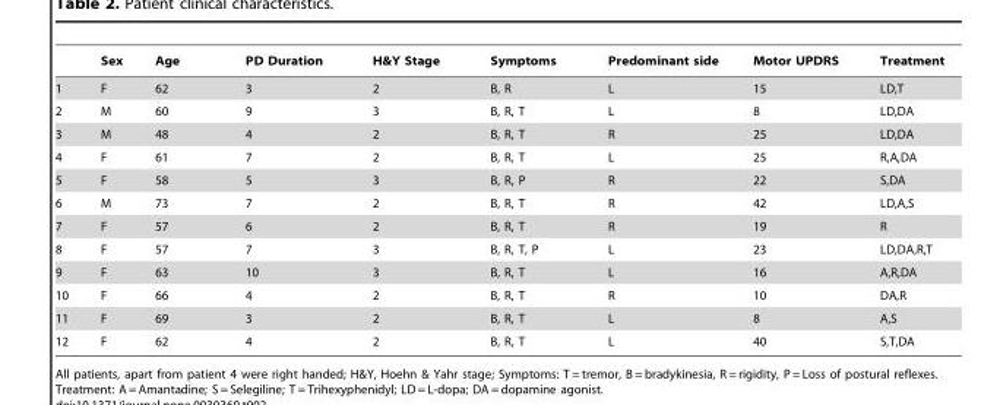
<table><thead><tr><td></td><td>Sex</td><td>Age</td><td>PD Duration</td><td>H&amp;Y Stage</td><td>Symptoms</td><td>Predominant side</td><td>Motor UPDRS</td><td>Treatment</td></tr></thead><tbody><tr><td>1</td><td>F</td><td>62</td><td>3</td><td>2</td><td>B, R</td><td>L</td><td>15</td><td>LD,T</td></tr><tr><td>2</td><td>M</td><td>60</td><td>9</td><td>3</td><td>B, R, T</td><td>L</td><td>8</td><td>LD,DA</td></tr><tr><td>3</td><td>M</td><td>48</td><td>4</td><td>2</td><td>B, R, T</td><td>R</td><td>25</td><td>LD,DA</td></tr><tr><td>4</td><td>F</td><td>61</td><td>7</td><td>2</td><td>B, R, T</td><td>L</td><td>25</td><td>R,A,DA</td></tr><tr><td>5</td><td>F</td><td>58</td><td>5</td><td>3</td><td>B, R, P</td><td>R</td><td>22</td><td>S,DA</td></tr><tr><td>6</td><td>M</td><td>73</td><td>7</td><td>2</td><td>B, R, T</td><td>R</td><td>42</td><td>LD,A,S</td></tr><tr><td>7</td><td>F</td><td>57</td><td>6</td><td>2</td><td>B, R, T</td><td>R</td><td>19</td><td>R</td></tr><tr><td>8</td><td>F</td><td>57</td><td>7</td><td>3</td><td>B, R, T, P</td><td>L</td><td>23</td><td>LD,DA,R,T</td></tr><tr><td>9</td><td>F</td><td>63</td><td>10</td><td>3</td><td>B, R, T</td><td>L</td><td>16</td><td>A,R,DA</td></tr><tr><td>10</td><td>F</td><td>66</td><td>4</td><td>2</td><td>B, R, T</td><td>R</td><td>10</td><td>DA,R</td></tr><tr><td>11</td><td>F</td><td>69</td><td>3</td><td>2</td><td>B, R, T</td><td>L</td><td>8</td><td>A,S</td></tr><tr><td>12</td><td>F</td><td>62</td><td>4</td><td>2</td><td>B, R, T</td><td>L</td><td>40</td><td>S,T,DA</td></tr></tbody></table>